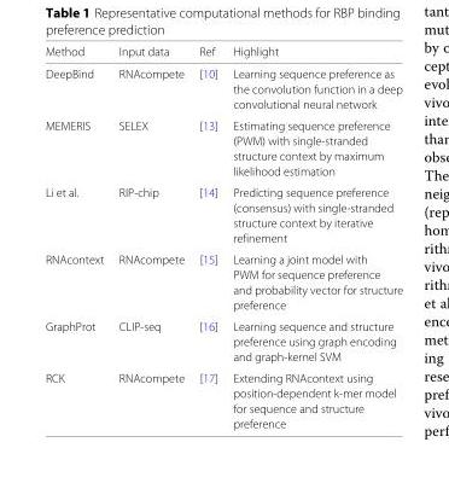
<table><thead><tr><td>Method</td><td>Input data</td><td>Ref</td><td>Highlight</td></tr></thead><tbody><tr><td rowspan="3">DeepBind</td><td>RNAcompete</td><td>[10]</td><td>Learning sequence preference as</td></tr><tr><td></td><td></td><td>the convolution function in a deep</td></tr><tr><td></td><td></td><td>convolutional neural network</td></tr><tr><td rowspan="4">MEMERIS</td><td>SELEX</td><td>[13]</td><td>Estimating sequence preference</td></tr><tr><td></td><td></td><td>(PWM) with single-stranded</td></tr><tr><td></td><td></td><td>structure context by maximum</td></tr><tr><td></td><td></td><td>likelihood estimation</td></tr><tr><td rowspan="4">Li et al.</td><td>RIP-chip</td><td>[14]</td><td>Predicting sequence preference</td></tr><tr><td></td><td></td><td>(consensus) with single-stranded</td></tr><tr><td></td><td></td><td>structure context by iterative</td></tr><tr><td></td><td></td><td>refinement</td></tr><tr><td rowspan="4">RNAcontext</td><td>RNAcompete</td><td>[15]</td><td>Learning a joint model with</td></tr><tr><td></td><td></td><td>PWM for sequence preference</td></tr><tr><td></td><td></td><td>and probability vector for structure</td></tr><tr><td></td><td></td><td>preference</td></tr><tr><td rowspan="3">GraphProt</td><td>CLIP-seq</td><td>[16]</td><td>Learning sequence and structure</td></tr><tr><td></td><td></td><td>preference using graph encoding</td></tr><tr><td></td><td></td><td>and graph-kernel SVM</td></tr><tr><td rowspan="4">RCK</td><td>RNAcompete</td><td>[17]</td><td>Extending RNAcontext using</td></tr><tr><td></td><td></td><td>position-dependent k-mer model</td></tr><tr><td></td><td></td><td>for sequence and structure</td></tr><tr><td></td><td></td><td>preference</td></tr></tbody></table>